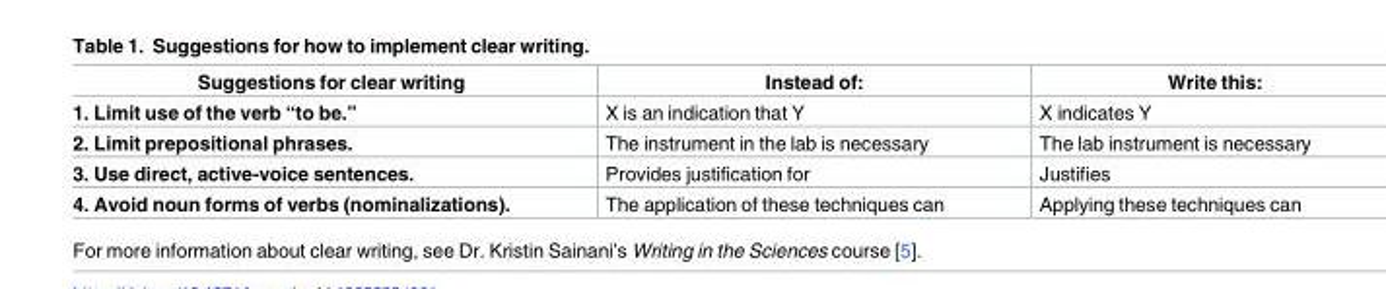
<table><thead><tr><td>Suggestions for clear writing</td><td>Instead of:</td><td>Write this:</td></tr></thead><tbody><tr><td>1. Limit use of the verb “to be.”</td><td>X is an indication that Y</td><td>X indicates Y</td></tr><tr><td>2. Limit prepositional phrases.</td><td>The instrument in the lab is necessary</td><td>The lab instrument is necessary</td></tr><tr><td>3. Use direct, active-voice sentences.</td><td>Provides justification for</td><td>Justifies</td></tr><tr><td>4. Avoid noun forms of verbs (nominalizations).</td><td>The application of these techniques can</td><td>Applying these techniques can</td></tr></tbody></table>